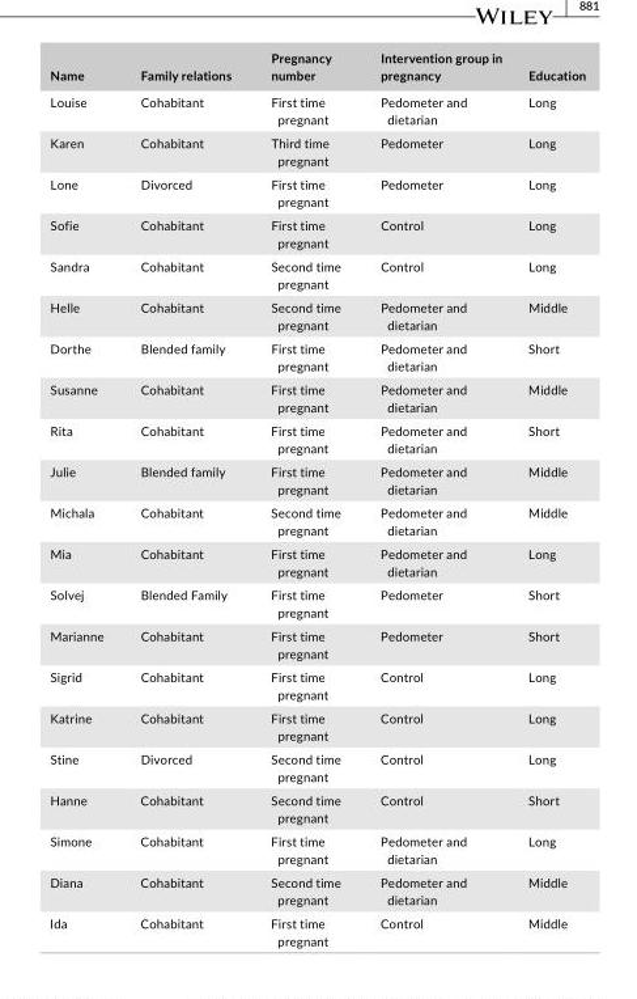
<table><thead><tr><td>Name</td><td>Family relations</td><td>Pregnancy number</td><td>Intervention group in pregnancy</td><td>Education</td></tr></thead><tbody><tr><td>Louise</td><td>Cohabitant</td><td>First time pregnant</td><td>Pedometer and dietarian</td><td>Long</td></tr><tr><td>Karen</td><td>Cohabitant</td><td>Third time pregnant</td><td>Pedometer</td><td>Long</td></tr><tr><td>Lone</td><td>Divorced</td><td>First time pregnant</td><td>Pedometer</td><td>Long</td></tr><tr><td>Sofie</td><td>Cohabitant</td><td>First time pregnant</td><td>Control</td><td>Long</td></tr><tr><td>Sandra</td><td>Cohabitant</td><td>Second time pregnant</td><td>Control</td><td>Long</td></tr><tr><td>Helle</td><td>Cohabitant</td><td>Second time pregnant</td><td>Pedometer and dietarian</td><td>Middle</td></tr><tr><td>Dorthe</td><td>Blended family</td><td>First time pregnant</td><td>Pedometer and dietarian</td><td>Short</td></tr><tr><td>Susanne</td><td>Cohabitant</td><td>First time pregnant</td><td>Pedometer and dietarian</td><td>Middle</td></tr><tr><td>Rita</td><td>Cohabitant</td><td>First time pregnant</td><td>Pedometer and dietarian</td><td>Short</td></tr><tr><td>Julie</td><td>Blended family</td><td>First time pregnant</td><td>Pedometer and dietarian</td><td>Middle</td></tr><tr><td>Michala</td><td>Cohabitant</td><td>Second time pregnant</td><td>Pedometer and dietarian</td><td>Middle</td></tr><tr><td>Mia</td><td>Cohabitant</td><td>First time pregnant</td><td>Pedometer and dietarian</td><td>Long</td></tr><tr><td>Solvej</td><td>Blended Family</td><td>First time pregnant</td><td>Pedometer</td><td>Short</td></tr><tr><td>Marianne</td><td>Cohabitant</td><td>First time pregnant</td><td>Pedometer</td><td>Short</td></tr><tr><td>Sigrid</td><td>Cohabitant</td><td>First time pregnant</td><td>Control</td><td>Long</td></tr><tr><td>Katrine</td><td>Cohabitant</td><td>First time pregnant</td><td>Control</td><td>Long</td></tr><tr><td>Stine</td><td>Divorced</td><td>Second time pregnant</td><td>Control</td><td>Long</td></tr><tr><td>Hanne</td><td>Cohabitant</td><td>Second time pregnant</td><td>Control</td><td>Short</td></tr><tr><td>Simone</td><td>Cohabitant</td><td>First time pregnant</td><td>Pedometer and dietarian</td><td>Long</td></tr><tr><td>Diana</td><td>Cohabitant</td><td>Second time pregnant</td><td>Pedometer and dietarian</td><td>Middle</td></tr><tr><td>Ida</td><td>Cohabitant</td><td>First time pregnant</td><td>Control</td><td>Middle</td></tr></tbody></table>